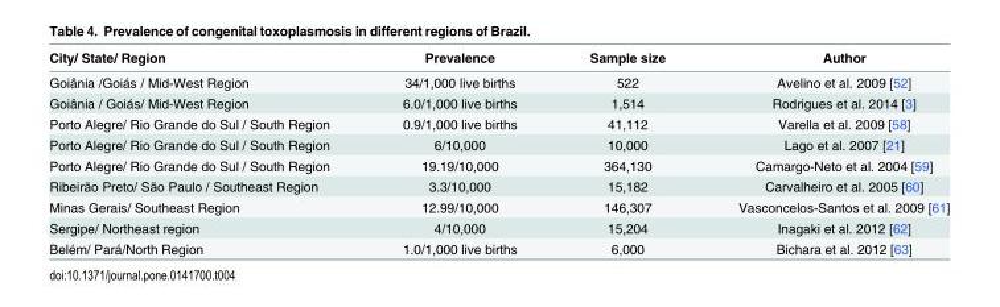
<table><thead><tr><td>City/ State/ Region</td><td>Prevalence</td><td>Sample size</td><td>Author</td></tr></thead><tbody><tr><td>Goiânia /Goiás / Mid-West Region</td><td>34/1,000 live births</td><td>522</td><td>Avelino et al. 2009 [52]</td></tr><tr><td>Goiânia / Goiás/ Mid-West Region</td><td>6.0/1,000 live births</td><td>1,514</td><td>Rodrigues et al. 2014 [3]</td></tr><tr><td>Porto Alegre/ Rio Grande do Sul / South Region</td><td>0.9/1,000 live births</td><td>41,112</td><td>Varella et al. 2009 [58]</td></tr><tr><td>Porto Alegre/ Rio Grande do Sul / South Region</td><td>6/10,000</td><td>10,000</td><td>Lago et al. 2007 [21]</td></tr><tr><td>Porto Alegre/ Rio Grande do Sul / South Region</td><td>19.19/10,000</td><td>364,130</td><td>Camargo-Neto et al. 2004 [59]</td></tr><tr><td>Ribeirão Preto/ São Paulo / Southeast Region</td><td>3.3/10,000</td><td>15,182</td><td>Carvalheiro et al. 2005 [60]</td></tr><tr><td>Minas Gerais/ Southeast Region</td><td>12.99/10,000</td><td>146,307</td><td>Vasconcelos-Santos et al. 2009 [61]</td></tr><tr><td>Sergipe/ Northeast region</td><td>4/10,000</td><td>15,204</td><td>Inagaki et al. 2012 [62]</td></tr><tr><td>Belém/ Pará/North Region</td><td>1.0/1,000 live births</td><td>6,000</td><td>Bichara et al. 2012 [63]</td></tr></tbody></table>